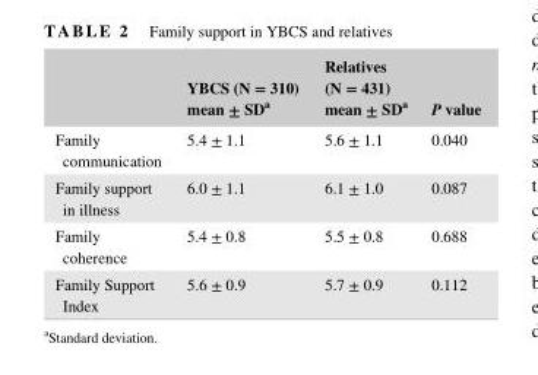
<table><thead><tr><td></td><td>YBCS (N = 310) mean ± SD<sup>a</sup></td><td>Relatives (N = 431) mean ± SD<sup>a</sup></td><td>P value</td></tr></thead><tbody><tr><td>Family communication</td><td>5.4 ± 1.1</td><td>5.6 ± 1.1</td><td>0.040</td></tr><tr><td>Family support in illness</td><td>6.0 ± 1.1</td><td>6.1 ± 1.0</td><td>0.087</td></tr><tr><td>Family coherence</td><td>5.4 ± 0.8</td><td>5.5 ± 0.8</td><td>0.688</td></tr><tr><td>Family Support Index</td><td>5.6 ± 0.9</td><td>5.7 ± 0.9</td><td>0.112</td></tr></tbody></table>